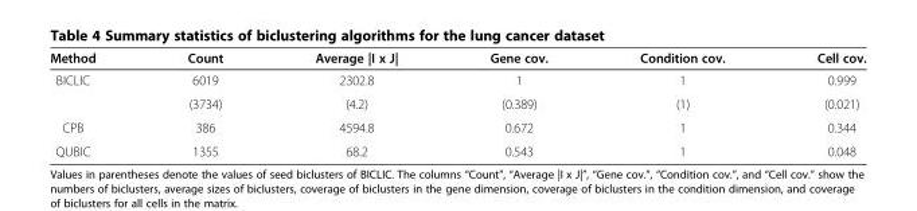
<table><thead><tr><td>Method</td><td>Count</td><td>Average |I x J|</td><td>Gene cov.</td><td>Condition cov.</td><td>Cell cov.</td></tr></thead><tbody><tr><td rowspan="2">BICLIC</td><td>6019</td><td>2302.8</td><td>1</td><td>1</td><td>0.999</td></tr><tr><td>(3734)</td><td>(4.2)</td><td>(0.389)</td><td>(1)</td><td>(0.021)</td></tr><tr><td>CPB</td><td>386</td><td>4594.8</td><td>0.672</td><td>1</td><td>0.344</td></tr><tr><td>QUBIC</td><td>1355</td><td>68.2</td><td>0.543</td><td>1</td><td>0.048</td></tr></tbody></table>